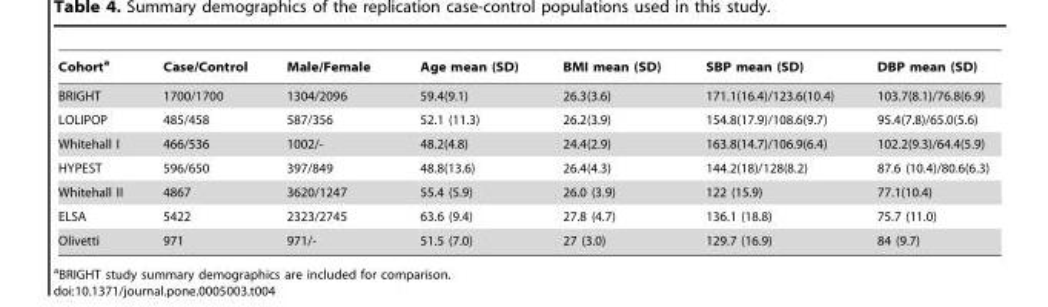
<table><thead><tr><td>Cohort<sup>a</sup></td><td>Case/Control</td><td>Male/Female</td><td>Age mean (SD)</td><td>BMI mean (SD)</td><td>SBP mean (SD)</td><td>DBP mean (SD)</td></tr></thead><tbody><tr><td>BRIGHT</td><td>1700/1700</td><td>1304/2096</td><td>59.4(9.1)</td><td>26.3(3.6)</td><td>171.1(16.4)/123.6(10.4)</td><td>103.7(8.1)/76.8(6.9)</td></tr><tr><td>LOLIPOP</td><td>485/458</td><td>587/356</td><td>52.1 (11.3)</td><td>26.2(3.9)</td><td>154.8(17.9)/108.6(9.7)</td><td>95.4(7.8)/65.0(5.6)</td></tr><tr><td>Whitehall I</td><td>466/536</td><td>1002/-</td><td>48.2(4.8)</td><td>24.4(2.9)</td><td>163.8(14.7)/106.9(6.4)</td><td>102.2(9.3)/64.4(5.9)</td></tr><tr><td>HYPEST</td><td>596/650</td><td>397/849</td><td>48.8(13.6)</td><td>26.4(4.3)</td><td>144.2(18)/128(8.2)</td><td>87.6 (10.4)/80.6(6.3)</td></tr><tr><td>Whitehall II</td><td>4867</td><td>3620/1247</td><td>55.4 (5.9)</td><td>26.0 (3.9)</td><td>122 (15.9)</td><td>77.1(10.4)</td></tr><tr><td>ELSA</td><td>5422</td><td>2323/2745</td><td>63.6 (9.4)</td><td>27.8 (4.7)</td><td>136.1 (18.8)</td><td>75.7 (11.0)</td></tr><tr><td>Olivetti</td><td>971</td><td>971/-</td><td>51.5 (7.0)</td><td>27 (3.0)</td><td>129.7 (16.9)</td><td>84 (9.7)</td></tr></tbody></table>